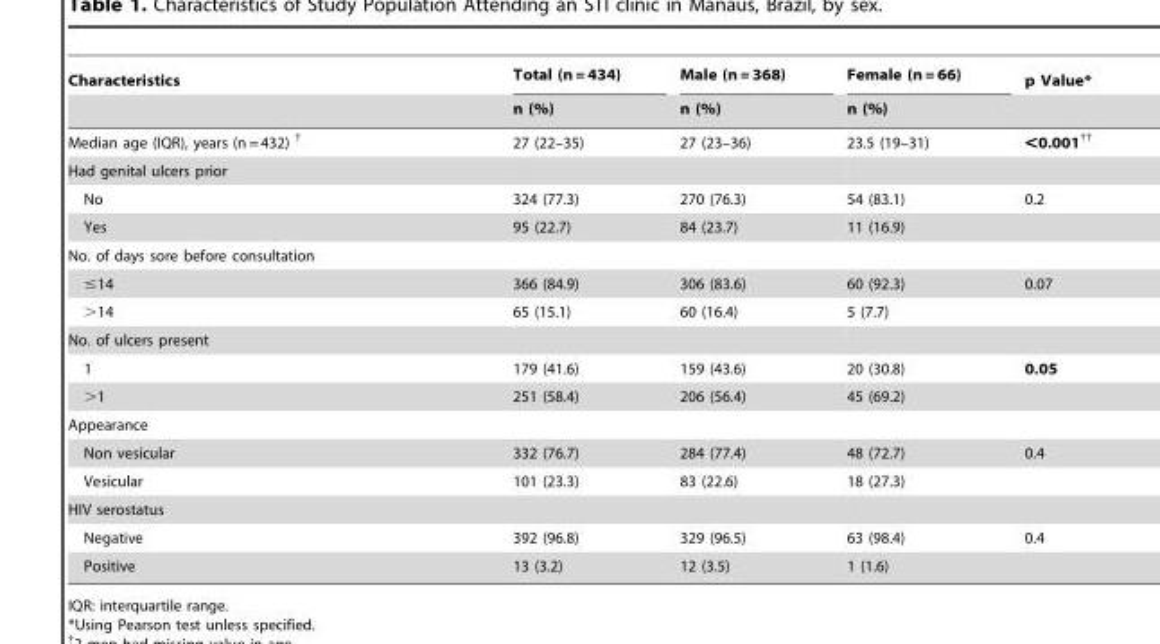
<table><thead><tr><td rowspan="2">Characteristics</td><td rowspan="2">Total (n = 434) n (%)</td><td rowspan="2">Male (n = 368) n (%)</td><td rowspan="2">Female (n = 66) n (%)</td><td rowspan="2">p Value*</td></tr><tr></tr></thead><tbody><tr><td>Median age (IQR), years (n = 432) †</td><td>27 (22–35)</td><td>27 (23–36)</td><td>23.5 (19–31)</td><td>&lt;0.001††</td></tr><tr><td colspan="5">Had genital ulcers prior</td></tr><tr><td>No</td><td>324 (77.3)</td><td>270 (76.3)</td><td>54 (83.1)</td><td>0.2</td></tr><tr><td>Yes</td><td>95 (22.7)</td><td>84 (23.7)</td><td>11 (16.9)</td><td></td></tr><tr><td colspan="5">No. of days sore before consultation</td></tr><tr><td>≤14</td><td>366 (84.9)</td><td>306 (83.6)</td><td>60 (92.3)</td><td>0.07</td></tr><tr><td>&gt;14</td><td>65 (15.1)</td><td>60 (16.4)</td><td>5 (7.7)</td><td></td></tr><tr><td colspan="5">No. of ulcers present</td></tr><tr><td>1</td><td>179 (41.6)</td><td>159 (43.6)</td><td>20 (30.8)</td><td>0.05</td></tr><tr><td>&gt;1</td><td>251 (58.4)</td><td>206 (56.4)</td><td>45 (69.2)</td><td></td></tr><tr><td colspan="5">Appearance</td></tr><tr><td>Non vesicular</td><td>332 (76.7)</td><td>284 (77.4)</td><td>48 (72.7)</td><td>0.4</td></tr><tr><td>Vesicular</td><td>101 (23.3)</td><td>83 (22.6)</td><td>18 (27.3)</td><td></td></tr><tr><td colspan="5">HIV serostatus</td></tr><tr><td>Negative</td><td>392 (96.8)</td><td>329 (96.5)</td><td>63 (98.4)</td><td>0.4</td></tr><tr><td>Positive</td><td>13 (3.2)</td><td>12 (3.5)</td><td>1 (1.6)</td><td></td></tr></tbody></table>